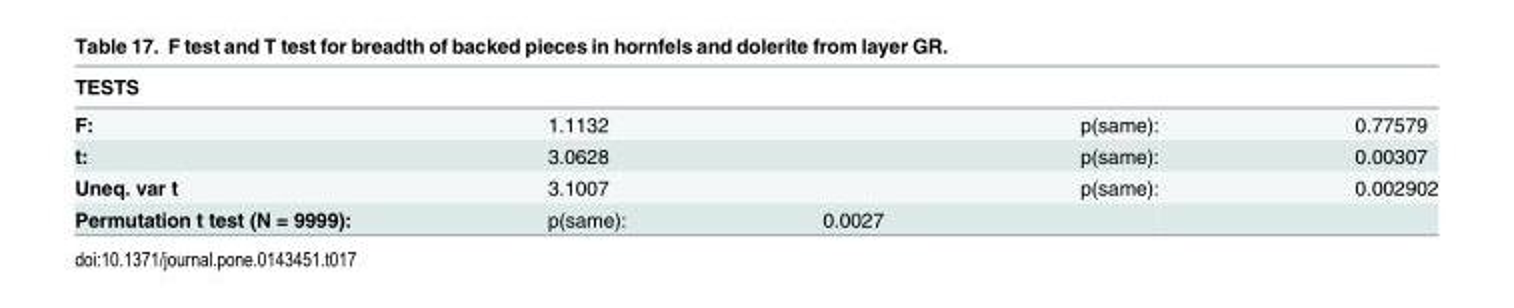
<table><thead><tr><td>TESTS</td><td></td><td></td><td></td><td></td></tr></thead><tbody><tr><td>F:</td><td>1.1132</td><td></td><td>p(same):</td><td>0.77579</td></tr><tr><td>t:</td><td>3.0628</td><td></td><td>p(same):</td><td>0.00307</td></tr><tr><td>Uneq. var t</td><td>3.1007</td><td></td><td>p(same):</td><td>0.002902</td></tr><tr><td>Permutation t test (N = 9999):</td><td>p(same):</td><td>0.0027</td><td></td><td></td></tr></tbody></table>